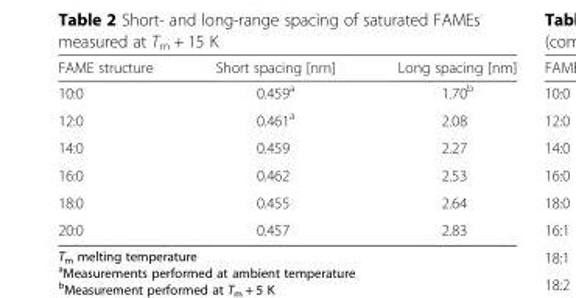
<table><thead><tr><td>FAME structure</td><td>Short spacing [nm]</td><td>Long spacing [nm]</td></tr></thead><tbody><tr><td>10:0</td><td>0.459<sup>a</sup></td><td>1.70<sup>b</sup></td></tr><tr><td>12:0</td><td>0.461<sup>a</sup></td><td>2.08</td></tr><tr><td>14:0</td><td>0.459</td><td>2.27</td></tr><tr><td>16:0</td><td>0.462</td><td>2.53</td></tr><tr><td>18:0</td><td>0.455</td><td>2.64</td></tr><tr><td>20:0</td><td>0.457</td><td>2.83</td></tr></tbody></table>